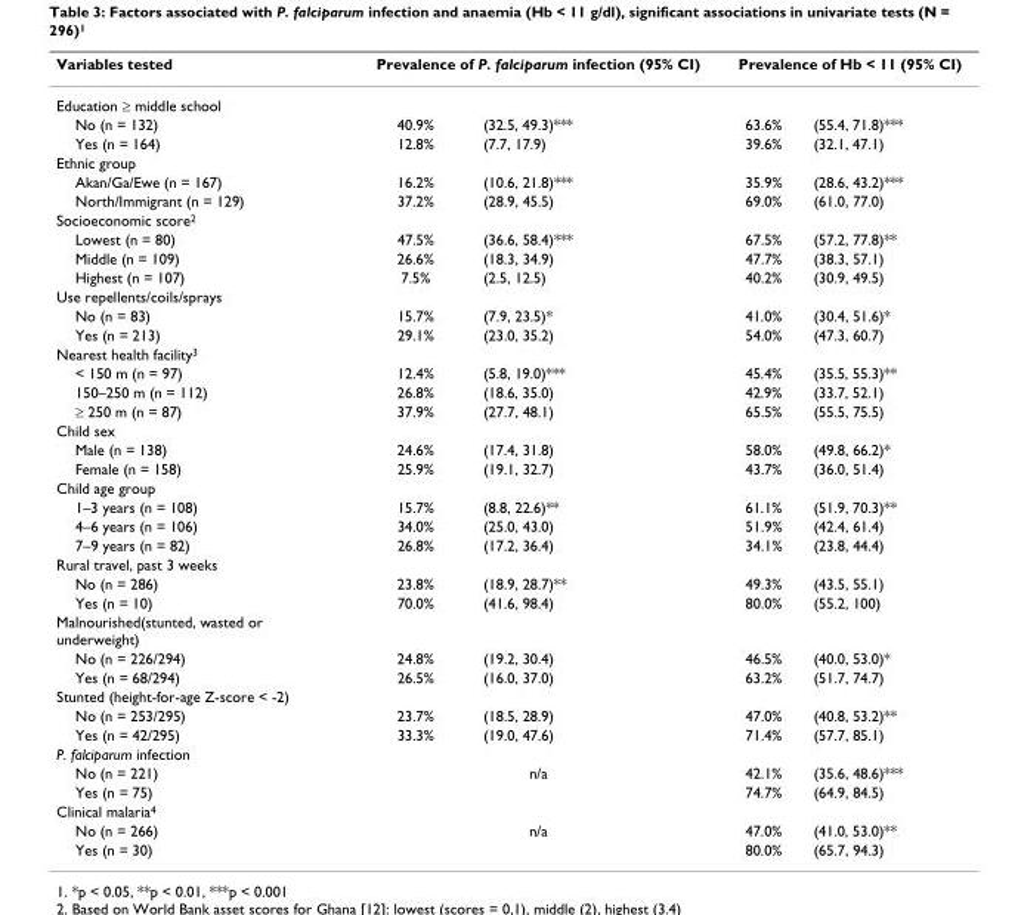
<table><thead><tr><td rowspan="2">Variables tested Education ≥ middle school</td><td colspan="2">Prevalence of P. falciparum infection (95% CI)</td><td colspan="2">Prevalence of Hb &lt; 11 (95% CI)</td></tr><tr><td></td><td></td><td></td><td></td></tr></thead><tbody><tr><td>No (n = 132)</td><td>40.9%</td><td>(32.5, 49.3)***</td><td>63.6%</td><td>(55.4, 71.8)***</td></tr><tr><td>Yes (n = 164)</td><td>12.8%</td><td>(7.7, 17.9)</td><td>39.6%</td><td>(32.1, 47.1)</td></tr><tr><td colspan="5">Ethnic group</td></tr><tr><td>Akan/Ga/Ewe (n = 167)</td><td>16.2%</td><td>(10.6, 21.8)***</td><td>35.9%</td><td>(28.6, 43.2)***</td></tr><tr><td>North/Immigrant (n = 129)</td><td>37.2%</td><td>(28.9, 45.5)</td><td>69.0%</td><td>(61.0, 77.0)</td></tr><tr><td colspan="5">Socioeconomic score<sup>2</sup></td></tr><tr><td>Lowest (n = 80)</td><td>47.5%</td><td>(36.6, 58.4)***</td><td>67.5%</td><td>(57.2, 77.8)**</td></tr><tr><td>Middle (n = 109)</td><td>26.6%</td><td>(18.3, 34.9)</td><td>47.7%</td><td>(38.3, 57.1)</td></tr><tr><td>Highest (n = 107)</td><td>7.5%</td><td>(2.5, 12.5)</td><td>40.2%</td><td>(30.9, 49.5)</td></tr><tr><td colspan="5">Use repellents/coils/sprays</td></tr><tr><td>No (n = 83)</td><td>15.7%</td><td>(7.9, 23.5)*</td><td>41.0%</td><td>(30.4, 51.6)*</td></tr><tr><td>Yes (n = 213)</td><td>29.1%</td><td>(23.0, 35.2)</td><td>54.0%</td><td>(47.3, 60.7)</td></tr><tr><td colspan="5">Nearest health facility<sup>3</sup></td></tr><tr><td>&lt; 150 m (n = 97)</td><td>12.4%</td><td>(5.8, 19.0)***</td><td>45.4%</td><td>(35.5, 55.3)**</td></tr><tr><td>150–250 m (n = 112)</td><td>26.8%</td><td>(18.6, 35.0)</td><td>42.9%</td><td>(33.7, 52.1)</td></tr><tr><td>≥ 250 m (n = 87)</td><td>37.9%</td><td>(27.7, 48.1)</td><td>65.5%</td><td>(55.5, 75.5)</td></tr><tr><td colspan="5">Child sex</td></tr><tr><td>Male (n = 138)</td><td>24.6%</td><td>(17.4, 31.8)</td><td>58.0%</td><td>(49.8, 66.2)*</td></tr><tr><td>Female (n = 158)</td><td>25.9%</td><td>(19.1, 32.7)</td><td>43.7%</td><td>(36.0, 51.4)</td></tr><tr><td colspan="5">Child age group</td></tr><tr><td>1–3 years (n = 108)</td><td>15.7%</td><td>(8.8, 22.6)**</td><td>61.1%</td><td>(51.9, 70.3)**</td></tr><tr><td>4–6 years (n = 106)</td><td>34.0%</td><td>(25.0, 43.0)</td><td>51.9%</td><td>(42.4, 61.4)</td></tr><tr><td>7–9 years (n = 82)</td><td>26.8%</td><td>(17.2, 36.4)</td><td>34.1%</td><td>(23.8, 44.4)</td></tr><tr><td colspan="5">Rural travel, past 3 weeks</td></tr><tr><td>No (n = 286)</td><td>23.8%</td><td>(18.9, 28.7)**</td><td>49.3%</td><td>(43.5, 55.1)</td></tr><tr><td>Yes (n = 10)</td><td>70.0%</td><td>(41.6, 98.4)</td><td>80.0%</td><td>(55.2, 100)</td></tr><tr><td colspan="5">Malnourished(stunted, wasted or underweight)</td></tr><tr><td>No (n = 226/294)</td><td>24.8%</td><td>(19.2, 30.4)</td><td>46.5%</td><td>(40.0, 53.0)*</td></tr><tr><td>Yes (n = 68/294)</td><td>26.5%</td><td>(16.0, 37.0)</td><td>63.2%</td><td>(51.7, 74.7)</td></tr><tr><td colspan="5">Stunted (height-for-age Z-score &lt; -2)</td></tr><tr><td>No (n = 253/295)</td><td>23.7%</td><td>(18.5, 28.9)</td><td>47.0%</td><td>(40.8, 53.2)**</td></tr><tr><td>Yes (n = 42/295)</td><td>33.3%</td><td>(19.0, 47.6)</td><td>71.4%</td><td>(57.7, 85.1)</td></tr><tr><td colspan="5">P. falciparum infection</td></tr><tr><td>No (n = 221)</td><td colspan="2">n/a</td><td>42.1%</td><td>(35.6, 48.6)***</td></tr><tr><td>Yes (n = 75)</td><td></td><td></td><td>74.7%</td><td>(64.9, 84.5)</td></tr><tr><td colspan="5">Clinical malaria<sup>4</sup></td></tr><tr><td>No (n = 266)</td><td colspan="2">n/a</td><td>47.0%</td><td>(41.0, 53.0)**</td></tr><tr><td>Yes (n = 30)</td><td></td><td></td><td>80.0%</td><td>(65.7, 94.3)</td></tr></tbody></table>